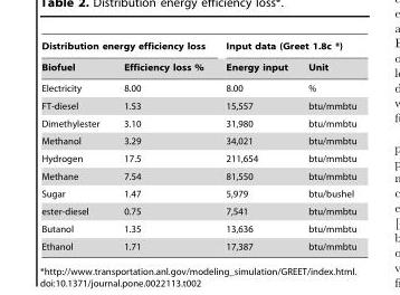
<table><thead><tr><td colspan="2">Distribution energy efficiency loss</td><td colspan="2">Input data (Greet 1.8c *)</td></tr><tr><td>Biofuel</td><td>Efficiency loss %</td><td>Energy input</td><td>Unit</td></tr></thead><tbody><tr><td>Electricity</td><td>8.00</td><td>8.00</td><td>%</td></tr><tr><td>FT-diesel</td><td>1.53</td><td>15,557</td><td>btu/mmbtu</td></tr><tr><td>Dimethylester</td><td>3.10</td><td>31,980</td><td>btu/mmbtu</td></tr><tr><td>Methanol</td><td>3.29</td><td>34,021</td><td>btu/mmbtu</td></tr><tr><td>Hydrogen</td><td>17.5</td><td>211,654</td><td>btu/mmbtu</td></tr><tr><td>Methane</td><td>7.54</td><td>81,550</td><td>btu/mmbtu</td></tr><tr><td>Sugar</td><td>1.47</td><td>5,979</td><td>btu/bushel</td></tr><tr><td>ester-diesel</td><td>0.75</td><td>7,541</td><td>btu/mmbtu</td></tr><tr><td>Butanol</td><td>1.35</td><td>13,636</td><td>btu/mmbtu</td></tr><tr><td>Ethanol</td><td>1.71</td><td>17,387</td><td>btu/mmbtu</td></tr></tbody></table>